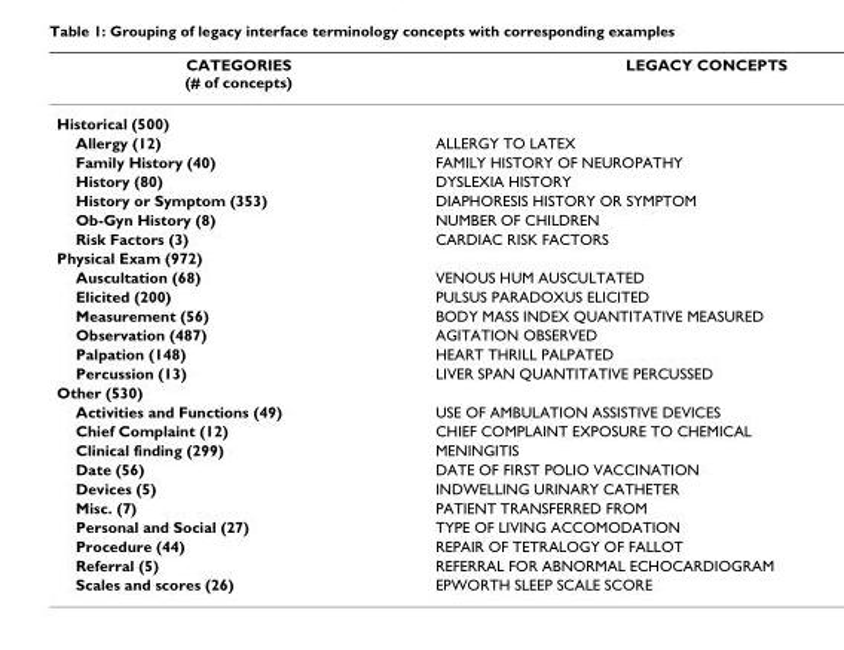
<table><thead><tr><td>CATEGORIES (# of concepts)</td><td>LEGACY CONCEPTS</td></tr></thead><tbody><tr><td colspan="2">Historical (500)</td></tr><tr><td>Allergy (12)</td><td>ALLERGY TO LATEX</td></tr><tr><td>Family History (40)</td><td>FAMILY HISTORY OF NEUROPATHY</td></tr><tr><td>History (80)</td><td>DYSLEXIA HISTORY</td></tr><tr><td>History or Symptom (353)</td><td>DIAPHORESIS HISTORY OR SYMPTOM</td></tr><tr><td>Ob-Gyn History (8)</td><td>NUMBER OF CHILDREN</td></tr><tr><td>Risk Factors (3)</td><td>CARDIAC RISK FACTORS</td></tr><tr><td colspan="2">Physical Exam (972)</td></tr><tr><td>Auscultation (68)</td><td>VENOUS HUM AUSCULTATED</td></tr><tr><td>Elicited (200)</td><td>PULSUS PARADOXUS ELICITED</td></tr><tr><td>Measurement (56)</td><td>BODY MASS INDEX QUANTITATIVE MEASURED</td></tr><tr><td>Observation (487)</td><td>AGITATION OBSERVED</td></tr><tr><td>Palpation (148)</td><td>HEART THRILL PALPATED</td></tr><tr><td>Percussion (13)</td><td>LIVER SPAN QUANTITATIVE PERCUSSED</td></tr><tr><td colspan="2">Other (530)</td></tr><tr><td>Activities and Functions (49)</td><td>USE OF AMBULATION ASSISTIVE DEVICES</td></tr><tr><td>Chief Complaint (12)</td><td>CHIEF COMPLAINT EXPOSURE TO CHEMICAL</td></tr><tr><td>Clinical finding (299)</td><td>MENINGITIS</td></tr><tr><td>Date (56)</td><td>DATE OF FIRST POLIO VACCINATION</td></tr><tr><td>Devices (5)</td><td>INDWELLING URINARY CATHETER</td></tr><tr><td>Misc. (7)</td><td>PATIENT TRANSFERRED FROM</td></tr><tr><td>Personal and Social (27)</td><td>TYPE OF LIVING ACCOMODATION</td></tr><tr><td>Procedure (44)</td><td>REPAIR OF TETRALOGY OF FALLOT</td></tr><tr><td>Referral (5)</td><td>REFERRAL FOR ABNORMAL ECHOCARDIOGRAM</td></tr><tr><td>Scales and scores (26)</td><td>EPWORTH SLEEP SCALE SCORE</td></tr></tbody></table>